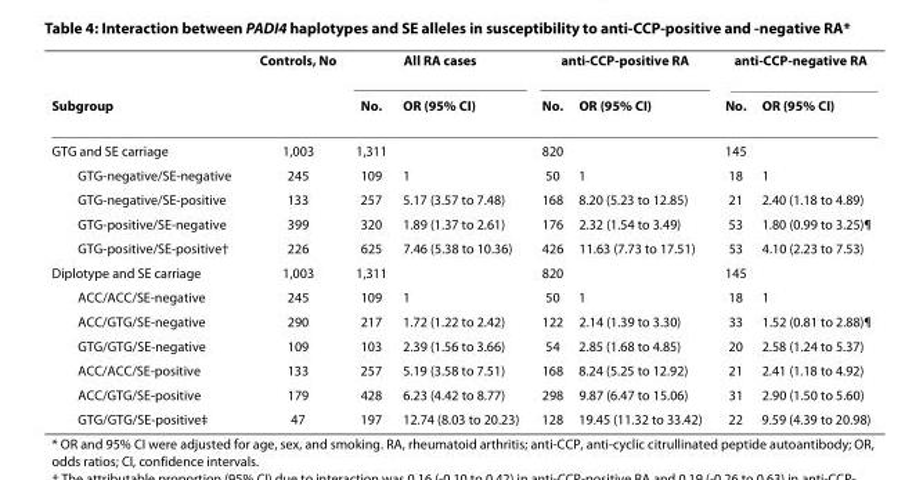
<table><thead><tr><td rowspan="2">Subgroup</td><td rowspan="2">Controls, No</td><td colspan="2">All RA cases</td><td colspan="2">anti-CCP-positive RA</td><td colspan="2">anti-CCP-negative RA</td></tr><tr><td>No.</td><td>OR (95% CI)</td><td>No.</td><td>OR (95% CI)</td><td>No.</td><td>OR (95% CI)</td></tr></thead><tbody><tr><td>GTG and SE carriage</td><td>1,003</td><td>1,311</td><td></td><td>820</td><td></td><td>145</td><td></td></tr><tr><td>GTG-negative/SE-negative</td><td>245</td><td>109</td><td>1</td><td>50</td><td>1</td><td>18</td><td>1</td></tr><tr><td>GTG-negative/SE-positive</td><td>133</td><td>257</td><td>5.17 (3.57 to 7.48)</td><td>168</td><td>8.20 (5.23 to 12.85)</td><td>21</td><td>2.40 (1.18 to 4.89)</td></tr><tr><td>GTG-positive/SE-negative</td><td>399</td><td>320</td><td>1.89 (1.37 to 2.61)</td><td>176</td><td>2.32 (1.54 to 3.49)</td><td>53</td><td>1.80 (0.99 to 3.25)¶</td></tr><tr><td>GTG-positive/SE-positive†</td><td>226</td><td>625</td><td>7.46 (5.38 to 10.36)</td><td>426</td><td>11.63 (7.73 to 17.51)</td><td>53</td><td>4.10 (2.23 to 7.53)</td></tr><tr><td>Diplotype and SE carriage</td><td>1,003</td><td>1,311</td><td></td><td>820</td><td></td><td>145</td><td></td></tr><tr><td>ACC/ACC/SE-negative</td><td>245</td><td>109</td><td>1</td><td>50</td><td>1</td><td>18</td><td>1</td></tr><tr><td>ACC/GTG/SE-negative</td><td>290</td><td>217</td><td>1.72 (1.22 to 2.42)</td><td>122</td><td>2.14 (1.39 to 3.30)</td><td>33</td><td>1.52 (0.81 to 2.88)¶</td></tr><tr><td>GTG/GTG/SE-negative</td><td>109</td><td>103</td><td>2.39 (1.56 to 3.66)</td><td>54</td><td>2.85 (1.68 to 4.85)</td><td>20</td><td>2.58 (1.24 to 5.37)</td></tr><tr><td>ACC/ACC/SE-positive</td><td>133</td><td>257</td><td>5.19 (3.58 to 7.51)</td><td>168</td><td>8.24 (5.25 to 12.92)</td><td>21</td><td>2.41 (1.18 to 4.92)</td></tr><tr><td>ACC/GTG/SE-positive</td><td>179</td><td>428</td><td>6.23 (4.42 to 8.77)</td><td>298</td><td>9.87 (6.47 to 15.06)</td><td>31</td><td>2.90 (1.50 to 5.60)</td></tr><tr><td>GTG/GTG/SE-positive‡</td><td>47</td><td>197</td><td>12.74 (8.03 to 20.23)</td><td>128</td><td>19.45 (11.32 to 33.42)</td><td>22</td><td>9.59 (4.39 to 20.98)</td></tr></tbody></table>